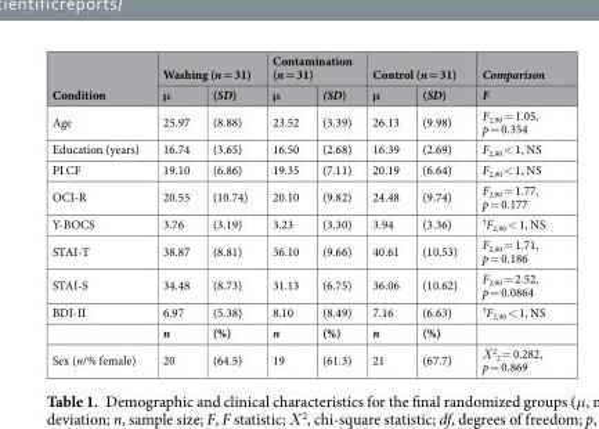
<table><thead><tr><td rowspan="2">Condition</td><td colspan="2">Washing (n = 31)</td><td colspan="2">Contamination (n = 31)</td><td colspan="2">Control (n = 31)</td><td rowspan="2">Comparison F</td></tr><tr><td>μ</td><td>(SD)</td><td>μ</td><td>(SD)</td><td>μ</td><td>(SD)</td></tr></thead><tbody><tr><td>Age</td><td>25.97</td><td>(8.88)</td><td>23.52</td><td>(3.39)</td><td>26.13</td><td>(9.98)</td><td>F<sub>2,90</sub> = 1.05, p = 0.354</td></tr><tr><td>Education (years)</td><td>16.74</td><td>(3.65)</td><td>16.50</td><td>(2.68)</td><td>16.39</td><td>(2.69)</td><td>F<sub>2,90</sub> &lt; 1, NS</td></tr><tr><td>PI CF</td><td>19.10</td><td>(6.86)</td><td>19.35</td><td>(7.11)</td><td>20.19</td><td>(6.64)</td><td>F<sub>2,90</sub> &lt; 1, NS</td></tr><tr><td>OCI-R</td><td>20.55</td><td>(10.74)</td><td>20.10</td><td>(9.82)</td><td>24.48</td><td>(9.74)</td><td>F<sub>2,90</sub> = 1.77, p = 0.177</td></tr><tr><td>Y-BOCS</td><td>3.76</td><td>(3.19)</td><td>3.23</td><td>(3.30)</td><td>3.94</td><td>(3.36)</td><td><sup>†</sup>F<sub>2,90</sub> &lt; 1, NS</td></tr><tr><td>STAI-T</td><td>38.87</td><td>(8.81)</td><td>36.10</td><td>(9.66)</td><td>40.61</td><td>(10.53)</td><td>F<sub>2,90</sub> = 1.71, p = 0.186</td></tr><tr><td>STAI-S</td><td>34.48</td><td>(8.73)</td><td>31.13</td><td>(6.75)</td><td>36.06</td><td>(10.62)</td><td>F<sub>2,90</sub> = 2.52, p = 0.0864</td></tr><tr><td rowspan="2">BDI-II</td><td>6.97</td><td>(5.38)</td><td>8.10</td><td>(8.49)</td><td>7.16</td><td>(6.63)</td><td><sup>†</sup>F<sub>2,90</sub> &lt; 1, NS</td></tr><tr><td>n</td><td>(%)</td><td>n</td><td>(%)</td><td>n</td><td>(%)</td><td></td></tr><tr><td>Sex (n/% female)</td><td>20</td><td>(64.5)</td><td>19</td><td>(61.3)</td><td>21</td><td>(67.7)</td><td>Χ<sup>2</sup> <sub>2</sub> = 0.282, p = 0.869</td></tr></tbody></table>